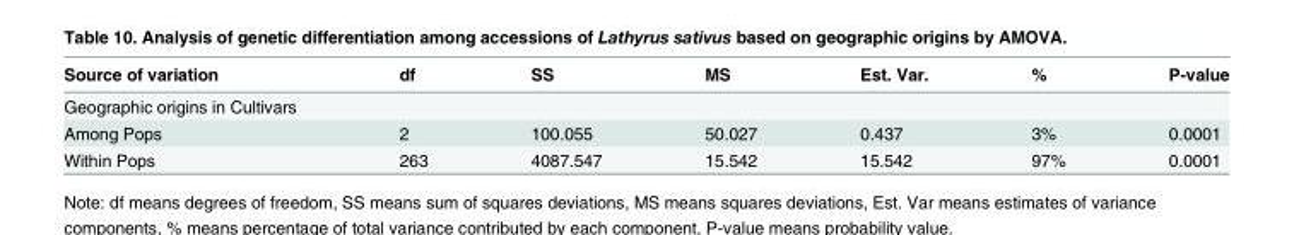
<table><thead><tr><td>Source of variation</td><td>df</td><td>SS</td><td>MS</td><td>Est. Var.</td><td>%</td><td>P-value</td></tr></thead><tbody><tr><td colspan="7">Geographic origins in Cultivars</td></tr><tr><td>Among Pops</td><td>2</td><td>100.055</td><td>50.027</td><td>0.437</td><td>3%</td><td>0.0001</td></tr><tr><td>Within Pops</td><td>263</td><td>4087.547</td><td>15.542</td><td>15.542</td><td>97%</td><td>0.0001</td></tr></tbody></table>